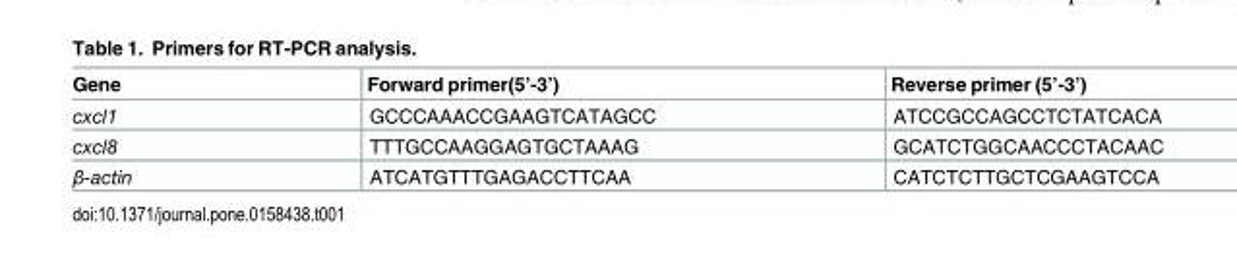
<table><thead><tr><td>Gene</td><td>Forward primer(5’-3’)</td><td>Reverse primer (5’-3’)</td></tr></thead><tbody><tr><td>cxcl1</td><td>GCCCAAACCGAAGTCATAGCC</td><td>ATCCGCCAGCCTCTATCACA</td></tr><tr><td>cxcl8</td><td>TTTGCCAAGGAGTGCTAAAG</td><td>GCATCTGGCAACCCTACAAC</td></tr><tr><td>β-actin</td><td>ATCATGTTTGAGACCTTCAA</td><td>CATCTCTTGCTCGAAGTCCA</td></tr></tbody></table>